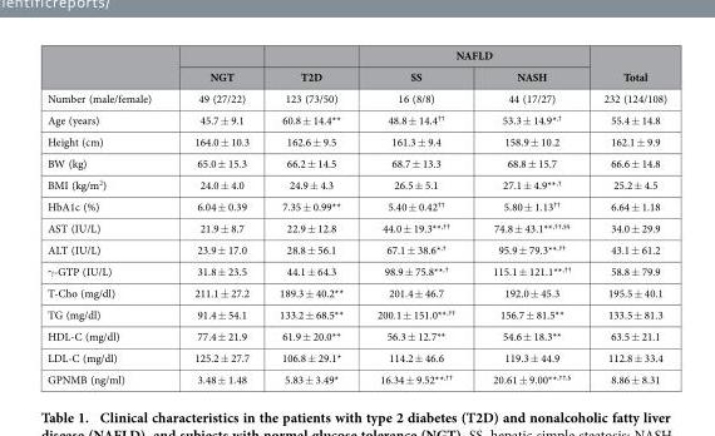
<table><thead><tr><td rowspan="2"></td><td rowspan="2">NGT</td><td rowspan="2">T2D</td><td colspan="2">NAFLD</td><td rowspan="2">Total</td></tr><tr><td>SS</td><td>NASH</td></tr></thead><tbody><tr><td>Number (male/female)</td><td>49 (27/22)</td><td>123 (73/50)</td><td>16 (8/8)</td><td>44 (17/27)</td><td>232 (124/108)</td></tr><tr><td>Age (years)</td><td>45.7 ± 9.1</td><td>60.8 ± 14.4**</td><td>48.8 ± 14.4<sup>††</sup></td><td>53.3 ± 14.9*<sup>,†</sup></td><td>55.4 ± 14.8</td></tr><tr><td>Height (cm)</td><td>164.0 ± 10.3</td><td>162.6 ± 9.5</td><td>161.3 ± 9.4</td><td>158.9 ± 10.2</td><td>162.1 ± 9.9</td></tr><tr><td>BW (kg)</td><td>65.0 ± 15.3</td><td>66.2 ± 14.5</td><td>68.7 ± 13.3</td><td>68.8 ± 15.7</td><td>66.6 ± 14.8</td></tr><tr><td>BMI (kg/m<sup>2</sup>)</td><td>24.0 ± 4.0</td><td>24.9 ± 4.3</td><td>26.5 ± 5.1</td><td>27.1 ± 4.9**<sup>,†</sup></td><td>25.2 ± 4.5</td></tr><tr><td>HbA1c (%)</td><td>6.04 ± 0.39</td><td>7.35 ± 0.99**</td><td>5.40 ± 0.42<sup>††</sup></td><td>5.80 ± 1.13<sup>††</sup></td><td>6.64 ± 1.18</td></tr><tr><td>AST (IU/L)</td><td>21.9 ± 8.7</td><td>22.9 ± 12.8</td><td>44.0 ± 19.3**<sup>,††</sup></td><td>74.8 ± 43.1**<sup>,††,§§</sup></td><td>34.0 ± 29.9</td></tr><tr><td>ALT (IU/L)</td><td>23.9 ± 17.0</td><td>28.8 ± 56.1</td><td>67.1 ± 38.6*<sup>,†</sup></td><td>95.9 ± 79.3**<sup>,††</sup></td><td>43.1 ± 61.2</td></tr><tr><td>γ -GTP (IU/L)</td><td>31.8 ± 23.5</td><td>44.1 ± 64.3</td><td>98.9 ± 75.8**<sup>,†</sup></td><td>115.1 ± 121.1**<sup>,††</sup></td><td>58.8 ± 79.9</td></tr><tr><td>T-Cho (mg/dl)</td><td>211.1 ± 27.2</td><td>189.3 ± 40.2**</td><td>201.4 ± 46.7</td><td>192.0 ± 45.3</td><td>195.5 ± 40.1</td></tr><tr><td>TG (mg/dl)</td><td>91.4 ± 54.1</td><td>133.2 ± 68.5**</td><td>200.1 ± 151.0**<sup>,††</sup></td><td>156.7 ± 81.5**</td><td>133.5 ± 81.3</td></tr><tr><td>HDL-C (mg/dl)</td><td>77.4 ± 21.9</td><td>61.9 ± 20.0**</td><td>56.3 ± 12.7**</td><td>54.6 ± 18.3**</td><td>63.5 ± 21.1</td></tr><tr><td>LDL-C (mg/dl)</td><td>125.2 ± 27.7</td><td>106.8 ± 29.1*</td><td>114.2 ± 46.6</td><td>119.3 ± 44.9</td><td>112.8 ± 33.4</td></tr><tr><td>GPNMB (ng/ml)</td><td>3.48 ± 1.48</td><td>5.83 ± 3.49*</td><td>16.34 ± 9.52**<sup>,††</sup></td><td>20.61 ± 9.00**<sup>,††,§</sup></td><td>8.86 ± 8.31</td></tr></tbody></table>